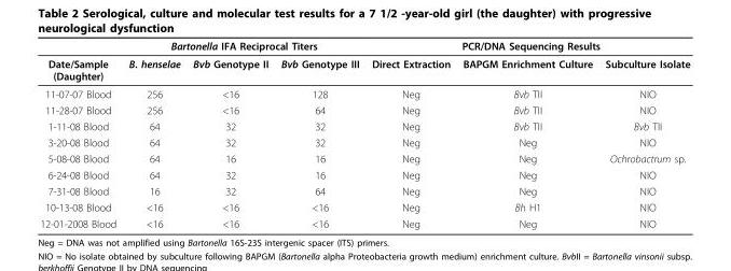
<table><thead><tr><td rowspan="2">Date/Sample (Daughter)</td><td colspan="3">Bartonella IFA Reciprocal Titers</td><td colspan="3">PCR/DNA Sequencing Results</td></tr><tr><td>B. henselae</td><td>Bvb Genotype II</td><td>Bvb Genotype III</td><td>Direct Extraction</td><td>BAPGM Enrichment Culture</td><td>Subculture Isolate</td></tr></thead><tbody><tr><td>11-07-07 Blood</td><td>256</td><td>&lt;16</td><td>128</td><td>Neg</td><td>Bvb TII</td><td>NIO</td></tr><tr><td>11-28-07 Blood</td><td>256</td><td>&lt;16</td><td>64</td><td>Neg</td><td>Bvb TII</td><td>NIO</td></tr><tr><td>1-11-08 Blood</td><td>64</td><td>32</td><td>32</td><td>Neg</td><td>Bvb TII</td><td>Bvb TII</td></tr><tr><td>3-20-08 Blood</td><td>64</td><td>32</td><td>32</td><td>Neg</td><td>Neg</td><td>NIO</td></tr><tr><td>5-08-08 Blood</td><td>64</td><td>16</td><td>16</td><td>Neg</td><td>Neg</td><td>Ochrobactrum sp.</td></tr><tr><td>6-24-08 Blood</td><td>64</td><td>32</td><td>16</td><td>Neg</td><td>Neg</td><td>NIO</td></tr><tr><td>7-31-08 Blood</td><td>16</td><td>32</td><td>64</td><td>Neg</td><td>Neg</td><td>NIO</td></tr><tr><td>10-13-08 Blood</td><td>&lt;16</td><td>&lt;16</td><td>&lt;16</td><td>Neg</td><td>Bh H1</td><td>NIO</td></tr><tr><td>12-01-2008 Blood</td><td>&lt;16</td><td>&lt;16</td><td>&lt;16</td><td>Neg</td><td>Neg</td><td>NIO</td></tr></tbody></table>